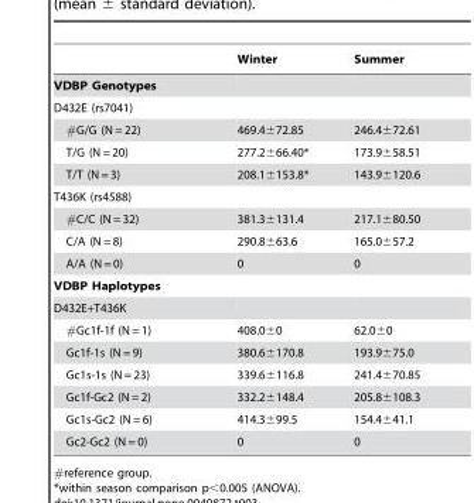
<table><thead><tr><td></td><td>Winter</td><td>Summer</td></tr></thead><tbody><tr><td colspan="3">VDBP Genotypes</td></tr><tr><td colspan="3">D432E (rs7041)</td></tr><tr><td>#G/G (N = 22)</td><td>469.4±72.85</td><td>246.4±72.61</td></tr><tr><td>T/G (N = 20)</td><td>277.2±66.40*</td><td>173.9±58.51</td></tr><tr><td>T/T (N = 3)</td><td>208.1±153.8*</td><td>143.9±120.6</td></tr><tr><td colspan="3">T436K (rs4588)</td></tr><tr><td>#C/C (N = 32)</td><td>381.3±131.4</td><td>217.1±80.50</td></tr><tr><td>C/A (N = 8)</td><td>290.8±63.6</td><td>165.0±57.2</td></tr><tr><td>A/A (N = 0)</td><td>0</td><td>0</td></tr><tr><td colspan="3">VDBP Haplotypes</td></tr><tr><td colspan="3">D432E+T436K</td></tr><tr><td>#Gc1f-1f (N = 1)</td><td>408.0±0</td><td>62.0±0</td></tr><tr><td>Gc1f-1s (N = 9)</td><td>380.6±170.8</td><td>193.9±75.0</td></tr><tr><td>Gc1s-1s (N = 23)</td><td>339.6±116.8</td><td>241.4±70.85</td></tr><tr><td>Gc1f-Gc2 (N = 2)</td><td>332.2±148.4</td><td>205.8±108.3</td></tr><tr><td>Gc1s-Gc2 (N = 6)</td><td>414.3±99.5</td><td>154.4±41.1</td></tr><tr><td>Gc2-Gc2 (N = 0)</td><td>0</td><td>0</td></tr></tbody></table>